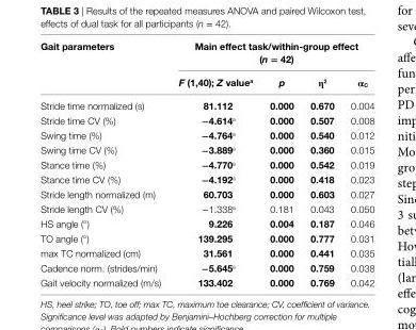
<table><thead><tr><td rowspan="2">gait parameters</td><td colspan="4">Main effect task/within-group effect (n = 42)</td></tr><tr><td>F (1,40); Z value<sup>a</sup></td><td>p</td><td>η<sup>2</sup></td><td>α<sub>c</sub></td></tr></thead><tbody><tr><td>Stride time normalized (s)</td><td>81.112</td><td>0.000</td><td>0.670</td><td>0.004</td></tr><tr><td>Stride time CV (%)</td><td>−4.614<sup>a</sup></td><td>0.000</td><td>0.507</td><td>0.008</td></tr><tr><td>Swing time (%)</td><td>−4.764<sup>a</sup></td><td>0.000</td><td>0.540</td><td>0.012</td></tr><tr><td>Swing time CV (%)</td><td>−3.889<sup>a</sup></td><td>0.000</td><td>0.360</td><td>0.015</td></tr><tr><td>Stance time (%)</td><td>−4.770<sup>a</sup></td><td>0.000</td><td>0.542</td><td>0.019</td></tr><tr><td>Stance time CV (%)</td><td>−4.192<sup>a</sup></td><td>0.000</td><td>0.418</td><td>0.023</td></tr><tr><td>Stride length normalized (m)</td><td>60.703</td><td>0.000</td><td>0.603</td><td>0.027</td></tr><tr><td>Stride length CV (%)</td><td>−1.338<sup>a</sup></td><td>0.181</td><td>0.043</td><td>0.050</td></tr><tr><td>HS angle (°)</td><td>9.226</td><td>0.004</td><td>0.187</td><td>0.046</td></tr><tr><td>TO angle (°)</td><td>139.295</td><td>0.000</td><td>0.777</td><td>0.031</td></tr><tr><td>max TC normalized (cm)</td><td>31.561</td><td>0.000</td><td>0.441</td><td>0.035</td></tr><tr><td>Cadence norm. (strides/min)</td><td>−5.645<sup>a</sup></td><td>0.000</td><td>0.759</td><td>0.038</td></tr><tr><td>Gait velocity normalized (m/s)</td><td>133.402</td><td>0.000</td><td>0.769</td><td>0.042</td></tr></tbody></table>